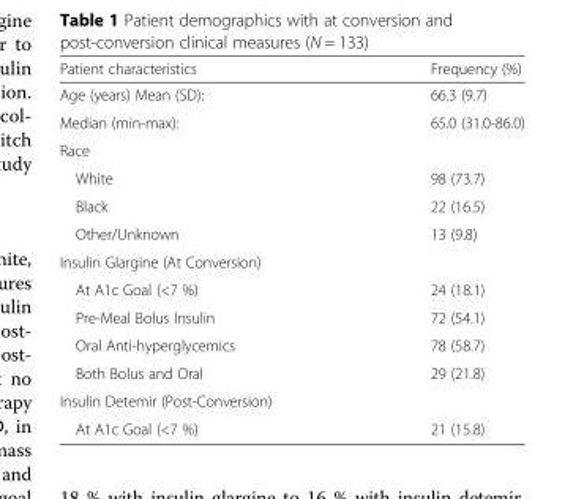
<table><thead><tr><td>Patient characteristics</td><td>Frequency (%)</td></tr></thead><tbody><tr><td>Age (years) Mean (SD):</td><td>66.3 (9.7)</td></tr><tr><td>Median (min-max):</td><td>65.0 (31.0-86.0)</td></tr><tr><td colspan="2">Race</td></tr><tr><td>White</td><td>98 (73.7)</td></tr><tr><td>Black</td><td>22 (16.5)</td></tr><tr><td>Other/Unknown</td><td>13 (9.8)</td></tr><tr><td colspan="2">Insulin Glargine (At Conversion)</td></tr><tr><td>At A1c Goal (&lt;7 %)</td><td>24 (18.1)</td></tr><tr><td>Pre-Meal Bolus Insulin</td><td>72 (54.1)</td></tr><tr><td>Oral Anti-hyperglycemics</td><td>78 (58.7)</td></tr><tr><td>Both Bolus and Oral</td><td>29 (21.8)</td></tr><tr><td colspan="2">Insulin Detemir (Post-Conversion)</td></tr><tr><td>At A1c Goal (&lt;7 %)</td><td>21 (15.8)</td></tr></tbody></table>